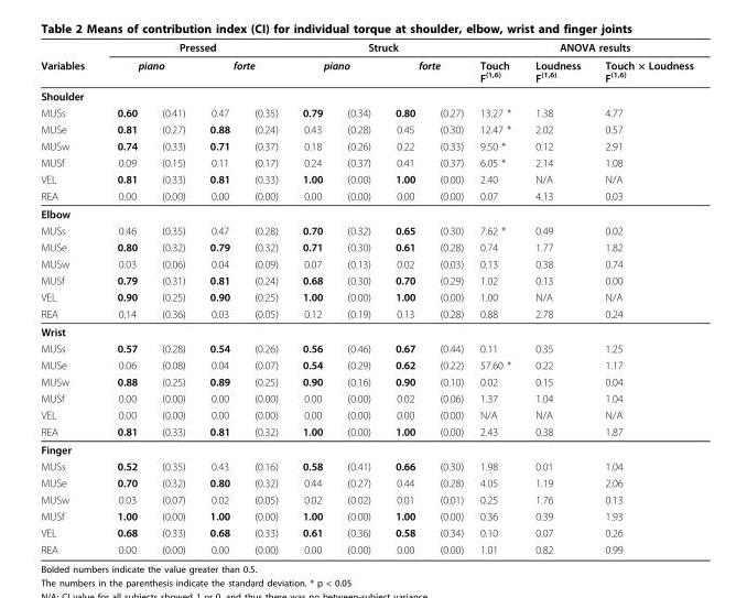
<table><thead><tr><td rowspan="3">Variables Shoulder</td><td colspan="4">Pressed</td><td colspan="4">Struck</td><td colspan="3">ANOVA results</td></tr><tr><td colspan="2">piano</td><td colspan="2">forte</td><td colspan="2">piano</td><td colspan="2">forte</td><td rowspan="2">Touch F<sup>(1,6)</sup></td><td rowspan="2">Loudness F<sup>(1,6)</sup></td><td rowspan="2">Touch × Loudness F<sup>(1,6)</sup></td></tr><tr><td></td><td></td><td></td><td></td><td></td><td></td><td></td><td></td></tr></thead><tbody><tr><td>MUSs</td><td>0.60</td><td>(0.41)</td><td>0.47</td><td>(0.35)</td><td>0.79</td><td>(0.34)</td><td>0.80</td><td>(0.27)</td><td>13.27 *</td><td>1.38</td><td>4.77</td></tr><tr><td>MUSe</td><td>0.81</td><td>(0.27)</td><td>0.88</td><td>(0.24)</td><td>0.43</td><td>(0.28)</td><td>0.45</td><td>(0.30)</td><td>12.47 *</td><td>2.02</td><td>0.57</td></tr><tr><td>MUSw</td><td>0.74</td><td>(0.33)</td><td>0.71</td><td>(0.37)</td><td>0.18</td><td>(0.26)</td><td>0.22</td><td>(0.33)</td><td>9.50 *</td><td>0.12</td><td>2.91</td></tr><tr><td>MUSf</td><td>0.09</td><td>(0.15)</td><td>0.11</td><td>(0.17)</td><td>0.24</td><td>(0.37)</td><td>0.41</td><td>(0.37)</td><td>6.05 *</td><td>2.14</td><td>1.08</td></tr><tr><td>VEL</td><td>0.81</td><td>(0.33)</td><td>0.81</td><td>(0.33)</td><td>1.00</td><td>(0.00)</td><td>1.00</td><td>(0.00)</td><td>2.40</td><td>N/A</td><td>N/A</td></tr><tr><td>REA</td><td>0.00</td><td>(0.00)</td><td>0.00</td><td>(0.00)</td><td>0.00</td><td>(0.00)</td><td>0.00</td><td>(0.00)</td><td>0.07</td><td>4.13</td><td>0.03</td></tr><tr><td colspan="12">Elbow</td></tr><tr><td>MUSs</td><td>0.46</td><td>(0.35)</td><td>0.47</td><td>(0.28)</td><td>0.70</td><td>(0.32)</td><td>0.65</td><td>(0.30)</td><td>7.62 *</td><td>0.49</td><td>0.02</td></tr><tr><td>MUSe</td><td>0.80</td><td>(0.32)</td><td>0.79</td><td>(0.32)</td><td>0.71</td><td>(0.30)</td><td>0.61</td><td>(0.28)</td><td>0.74</td><td>1.77</td><td>1.82</td></tr><tr><td>MUSw</td><td>0.03</td><td>(0.06)</td><td>0.04</td><td>(0.09)</td><td>0.07</td><td>(0.13)</td><td>0.02</td><td>(0.03)</td><td>0.13</td><td>0.38</td><td>0.74</td></tr><tr><td>MUSf</td><td>0.79</td><td>(0.31)</td><td>0.81</td><td>(0.24)</td><td>0.68</td><td>(0.30)</td><td>0.70</td><td>(0.29)</td><td>1.02</td><td>0.13</td><td>0.00</td></tr><tr><td>VEL</td><td>0.90</td><td>(0.25)</td><td>0.90</td><td>(0.25)</td><td>1.00</td><td>(0.00)</td><td>1.00</td><td>(0.00)</td><td>1.00</td><td>N/A</td><td>N/A</td></tr><tr><td>REA</td><td>0.14</td><td>(0.36)</td><td>0.03</td><td>(0.05)</td><td>0.12</td><td>(0.19)</td><td>0.13</td><td>(0.28)</td><td>0.88</td><td>2.78</td><td>0.24</td></tr><tr><td colspan="12">Wrist</td></tr><tr><td>MUSs</td><td>0.57</td><td>(0.28)</td><td>0.54</td><td>(0.26)</td><td>0.56</td><td>(0.46)</td><td>0.67</td><td>(0.44)</td><td>0.11</td><td>0.35</td><td>1.25</td></tr><tr><td>MUSe</td><td>0.06</td><td>(0.08)</td><td>0.04</td><td>(0.07)</td><td>0.54</td><td>(0.29)</td><td>0.62</td><td>(0.22)</td><td>57.60 *</td><td>0.22</td><td>1.17</td></tr><tr><td>MUSw</td><td>0.88</td><td>(0.25)</td><td>0.89</td><td>(0.25)</td><td>0.90</td><td>(0.16)</td><td>0.90</td><td>(0.10)</td><td>0.02</td><td>0.15</td><td>0.04</td></tr><tr><td>MUSf</td><td>0.00</td><td>(0.00)</td><td>0.00</td><td>(0.00)</td><td>0.00</td><td>(0.00)</td><td>0.02</td><td>(0.06)</td><td>1.37</td><td>1.04</td><td>1.04</td></tr><tr><td>VEL</td><td>0.00</td><td>(0.00)</td><td>0.00</td><td>(0.00)</td><td>0.00</td><td>(0.00)</td><td>0.00</td><td>(0.00)</td><td>N/A</td><td>N/A</td><td>N/A</td></tr><tr><td>REA</td><td>0.81</td><td>(0.33)</td><td>0.81</td><td>(0.32)</td><td>1.00</td><td>(0.00)</td><td>1.00</td><td>(0.00)</td><td>2.43</td><td>0.38</td><td>1.87</td></tr><tr><td colspan="12">Finger</td></tr><tr><td>MUSs</td><td>0.52</td><td>(0.35)</td><td>0.43</td><td>(0.16)</td><td>0.58</td><td>(0.41)</td><td>0.66</td><td>(0.30)</td><td>1.98</td><td>0.01</td><td>1.04</td></tr><tr><td>MUSe</td><td>0.70</td><td>(0.32)</td><td>0.80</td><td>(0.32)</td><td>0.44</td><td>(0.27)</td><td>0.44</td><td>(0.28)</td><td>4.05</td><td>1.19</td><td>2.06</td></tr><tr><td>MUSw</td><td>0.03</td><td>(0.07)</td><td>0.02</td><td>(0.05)</td><td>0.02</td><td>(0.02)</td><td>0.01</td><td>(0.01)</td><td>0.25</td><td>1.76</td><td>0.13</td></tr><tr><td>MUSf</td><td>1.00</td><td>(0.00)</td><td>1.00</td><td>(0.00)</td><td>1.00</td><td>(0.00)</td><td>1.00</td><td>(0.00)</td><td>0.36</td><td>0.39</td><td>1.93</td></tr><tr><td>VEL</td><td>0.68</td><td>(0.33)</td><td>0.68</td><td>(0.33)</td><td>0.61</td><td>(0.36)</td><td>0.58</td><td>(0.34)</td><td>0.10</td><td>0.07</td><td>0.26</td></tr><tr><td>REA</td><td>0.00</td><td>(0.00)</td><td>0.00</td><td>(0.00)</td><td>0.00</td><td>(0.00)</td><td>0.00</td><td>(0.00)</td><td>1.01</td><td>0.82</td><td>0.99</td></tr></tbody></table>